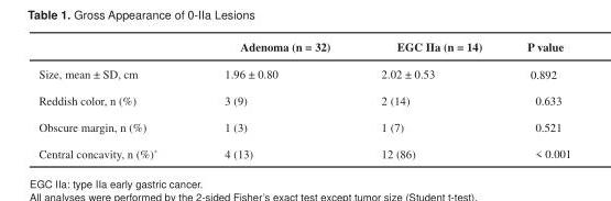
<table><thead><tr><td></td><td>Adenoma (n = 32)</td><td>EGC IIa (n = 14)</td><td>P value</td></tr></thead><tbody><tr><td>Size, mean ± SD, cm</td><td>1.96 ± 0.80</td><td>2.02 ± 0.53</td><td>0.892</td></tr><tr><td>Reddish color, n (%)</td><td>3 (9)</td><td>2 (14)</td><td>0.633</td></tr><tr><td>Obscure margin, n (%)</td><td>1 (3)</td><td>1 (7)</td><td>0.521</td></tr><tr><td>Central concavity, n (%)*</td><td>4 (13)</td><td>12 (86)</td><td>&lt; 0.001</td></tr></tbody></table>